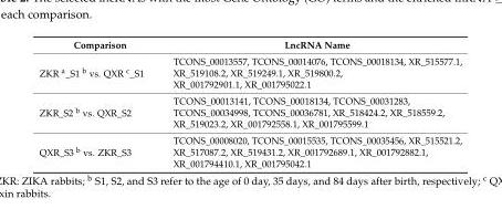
<table><thead><tr><td>Comparison</td><td>LncRNA Name</td></tr></thead><tbody><tr><td>ZKR <sup>a</sup>_S1 <sup>b</sup> vs. QXR <sup>c</sup>_S1</td><td>TCONS_00013557, TCONS_00014076, TCONS_00018134, XR_515577.1, XR_519108.2, XR_519249.1, XR_519800.2, XR_001792901.1, XR_001795022.1</td></tr><tr><td>ZKR_S2 <sup>b</sup> vs. QXR_S2</td><td>TCONS_00013141, TCONS_00018134, TCONS_00031283, TCONS_00034998, TCONS_00036781, XR_518424.2, XR_518559.2, XR_519023.2, XR_001792558.1, XR_001795599.1</td></tr><tr><td>QXR_S3 <sup>b</sup> vs. ZKR_S3</td><td>TCONS_00008020, TCONS_00015535, TCONS_00035456, XR_515521.2, XR_517087.2, XR_519431.2, XR_001792689.1, XR_001792882.1, XR_001794410.1, XR_001795042.1</td></tr></tbody></table>